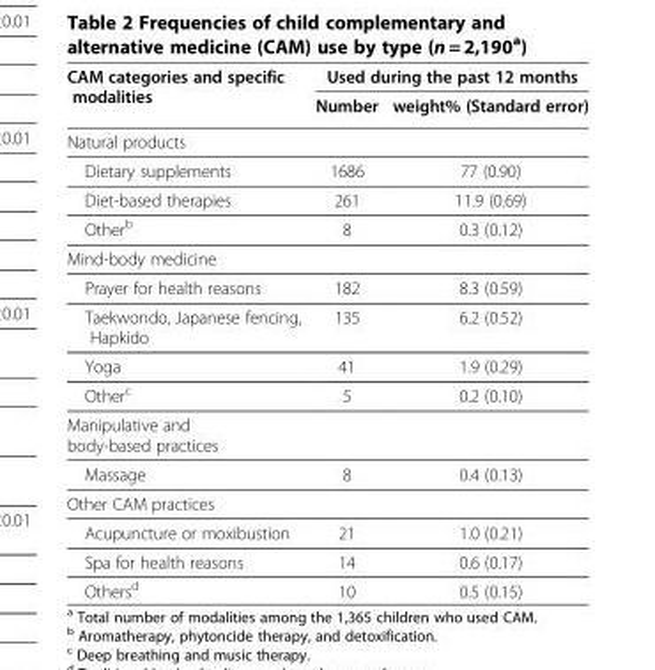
<table><thead><tr><td rowspan="2">CAM categories and specific modalities</td><td colspan="2">Used during the past 12 months</td></tr><tr><td>Number</td><td>weight% (Standard error)</td></tr></thead><tbody><tr><td colspan="3">Natural products</td></tr><tr><td>Dietary supplements</td><td>1686</td><td>77 (0.90)</td></tr><tr><td>Diet-based therapies</td><td>261</td><td>11.9 (0.69)</td></tr><tr><td>Other<sup>b</sup></td><td>8</td><td>0.3 (0.12)</td></tr><tr><td colspan="3">Mind-body medicine</td></tr><tr><td>Prayer for health reasons</td><td>182</td><td>8.3 (0.59)</td></tr><tr><td>Taekwondo, Japanese fencing, Hapkido</td><td>135</td><td>6.2 (0.52)</td></tr><tr><td>Yoga</td><td>41</td><td>1.9 (0.29)</td></tr><tr><td>Other<sup>c</sup></td><td>5</td><td>0.2 (0.10)</td></tr><tr><td colspan="3">Manipulative and body-based practices</td></tr><tr><td>Massage</td><td>8</td><td>0.4 (0.13)</td></tr><tr><td colspan="3">Other CAM practices</td></tr><tr><td>Acupuncture or moxibustion</td><td>21</td><td>1.0 (0.21)</td></tr><tr><td>Spa for health reasons</td><td>14</td><td>0.6 (0.17)</td></tr><tr><td>Others<sup>d</sup></td><td>10</td><td>0.5 (0.15)</td></tr></tbody></table>